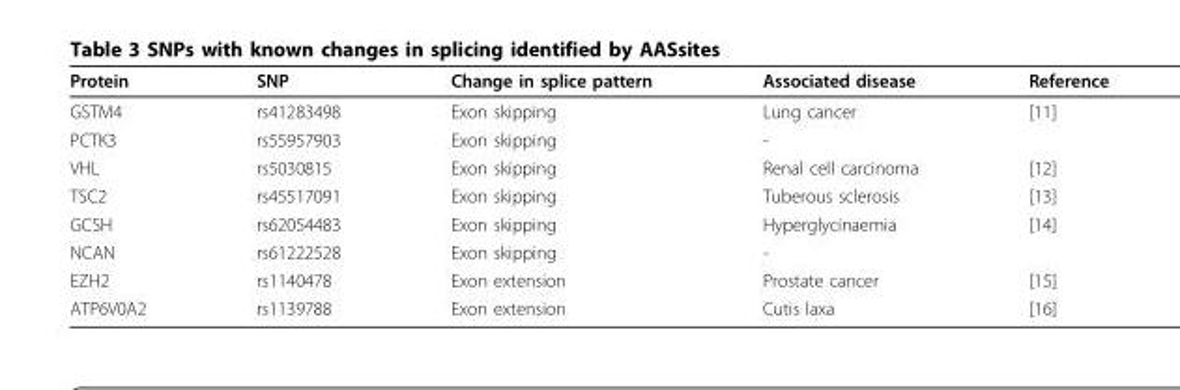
<table><thead><tr><td>Protein</td><td>SNP</td><td>Change in splice pattern</td><td>Associated disease</td><td>Reference</td></tr></thead><tbody><tr><td>GSTM4</td><td>rs41283498</td><td>Exon skipping</td><td>Lung cancer</td><td>[11]</td></tr><tr><td>PCTK3</td><td>rs55957903</td><td>Exon skipping</td><td>-</td><td></td></tr><tr><td>VHL</td><td>rs5030815</td><td>Exon skipping</td><td>Renal cell carcinoma</td><td>[12]</td></tr><tr><td>TSC2</td><td>rs45517091</td><td>Exon skipping</td><td>Tuberous sclerosis</td><td>[13]</td></tr><tr><td>GCSH</td><td>rs62054483</td><td>Exon skipping</td><td>Hyperglycinaemia</td><td>[14]</td></tr><tr><td>NCAN</td><td>rs61222528</td><td>Exon skipping</td><td>-</td><td></td></tr><tr><td>EZH2</td><td>rs1140478</td><td>Exon extension</td><td>Prostate cancer</td><td>[15]</td></tr><tr><td>ATP6V0A2</td><td>rs1139788</td><td>Exon extension</td><td>Cutis laxa</td><td>[16]</td></tr></tbody></table>